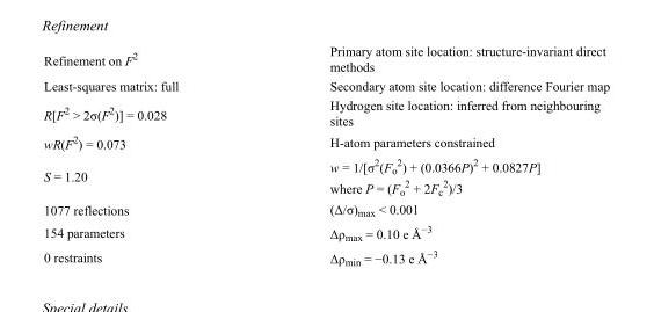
<table><tbody><tr><td>Refinement on F<sup>2</sup></td><td>Primary atom site location: structure-invariant direct methods</td></tr><tr><td>Least-squares matrix: full</td><td>Secondary atom site location: difference Fourier map</td></tr><tr><td>R[F<sup>2</sup> &gt; 2σ(F<sup>2</sup>)] = 0.028</td><td>Hydrogen site location: inferred from neighbouring sites</td></tr><tr><td>wR(F<sup>2</sup>) = 0.073</td><td>H-atom parameters constrained</td></tr><tr><td>S = 1.20</td><td>w = 1/[σ<sup>2</sup>(F<sub>o</sub> <sup>2</sup>) + (0.0366P)<sup>2</sup> + 0.0827P] where P = (F<sub>o</sub> <sup>2</sup> + 2F<sub>c</sub> <sup>2</sup>)/3</td></tr><tr><td>1077 reflections</td><td>(Δ/σ)<sub>max</sub> &lt; 0.001</td></tr><tr><td>154 parameters</td><td>Δρ<sub>max</sub> = 0.10 e Å<sup>−3</sup></td></tr><tr><td>0 restraints</td><td>Δρ<sub>min</sub> = −0.13 e Å<sup>−3</sup></td></tr></tbody></table>